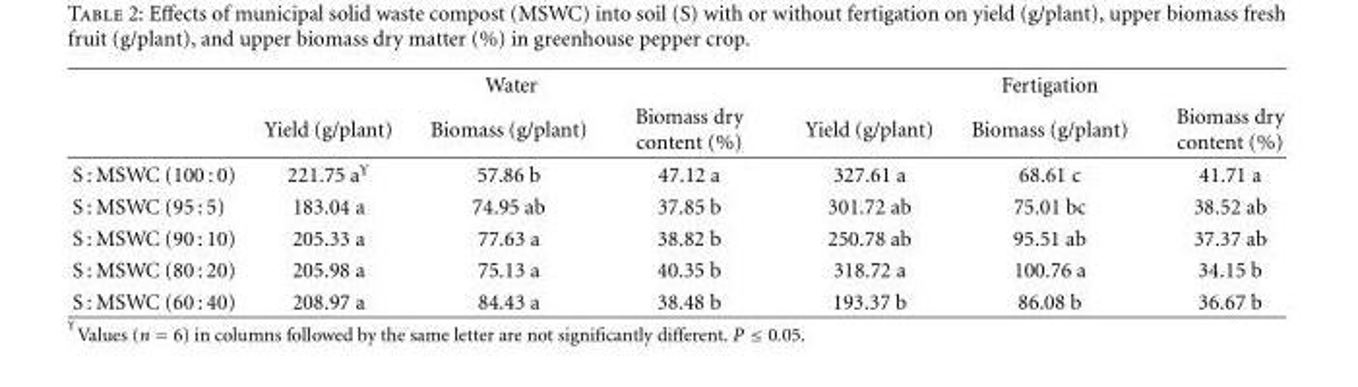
<table><thead><tr><td rowspan="2"></td><td colspan="3">Water</td><td colspan="3">Fertigation</td></tr><tr><td>Yield (g/plant)</td><td>Biomass (g/plant)</td><td>Biomass dry content (%)</td><td>Yield (g/plant)</td><td>Biomass (g/plant)</td><td>Biomass dry content (%)</td></tr></thead><tbody><tr><td>S : MSWC (100 : 0)</td><td>221.75 a<sup>Y</sup></td><td>57.86 b</td><td>47.12 a</td><td>327.61 a</td><td>68.61 c</td><td>41.71 a</td></tr><tr><td>S : MSWC (95 : 5)</td><td>183.04 a</td><td>74.95 ab</td><td>37.85 b</td><td>301.72 ab</td><td>75.01 bc</td><td>38.52 ab</td></tr><tr><td>S : MSWC (90 : 10)</td><td>205.33 a</td><td>77.63 a</td><td>38.82 b</td><td>250.78 ab</td><td>95.51 ab</td><td>37.37 ab</td></tr><tr><td>S : MSWC (80 : 20)</td><td>205.98 a</td><td>75.13 a</td><td>40.35 b</td><td>318.72 a</td><td>100.76 a</td><td>34.15 b</td></tr><tr><td>S : MSWC (60 : 40)</td><td>208.97 a</td><td>84.43 a</td><td>38.48 b</td><td>193.37 b</td><td>86.08 b</td><td>36.67 b</td></tr></tbody></table>